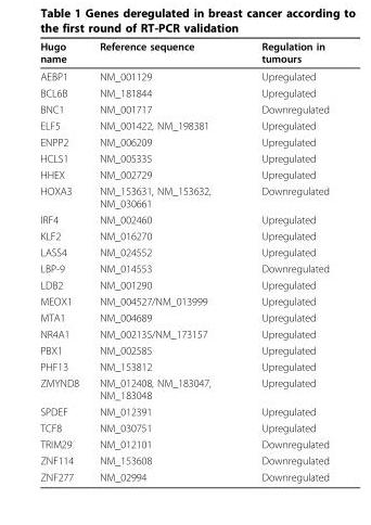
<table><thead><tr><td>Hugo name</td><td>Reference sequence</td><td>Regulation in tumours</td></tr></thead><tbody><tr><td>AEBP1</td><td>NM_001129</td><td>Upregulated</td></tr><tr><td>BCL6B</td><td>NM_181844</td><td>Upregulated</td></tr><tr><td>BNC1</td><td>NM_001717</td><td>Downregulated</td></tr><tr><td>ELF5</td><td>NM_001422, NM_198381</td><td>Upregulated</td></tr><tr><td>ENPP2</td><td>NM_006209</td><td>Upregulated</td></tr><tr><td>HCLS1</td><td>NM_005335</td><td>Upregulated</td></tr><tr><td>HHEX</td><td>NM_002729</td><td>Upregulated</td></tr><tr><td>HOXA3</td><td>NM_153631, NM_153632, NM_030661</td><td>Downregulated</td></tr><tr><td>IRF4</td><td>NM_002460</td><td>Upregulated</td></tr><tr><td>KLF2</td><td>NM_016270</td><td>Upregulated</td></tr><tr><td>LASS4</td><td>NM_024552</td><td>Upregulated</td></tr><tr><td>LBP-9</td><td>NM_014553</td><td>Downregulated</td></tr><tr><td>LDB2</td><td>NM_001290</td><td>Upregulated</td></tr><tr><td>MEOX1</td><td>NM_004527/NM_013999</td><td>Upregulated</td></tr><tr><td>MTA1</td><td>NM_004689</td><td>Upregulated</td></tr><tr><td>NR4A1</td><td>NM_002135/NM_173157</td><td>Upregulated</td></tr><tr><td>PBX1</td><td>NM_002585</td><td>Upregulated</td></tr><tr><td>PHF13</td><td>NM_153812</td><td>Upregulated</td></tr><tr><td>ZMYND8</td><td>NM_012408, NM_183047, NM_183048</td><td>Upregulated</td></tr><tr><td>SPDEF</td><td>NM_012391</td><td>Upregulated</td></tr><tr><td>TCF8</td><td>NM_030751</td><td>Upregulated</td></tr><tr><td>TRIM29</td><td>NM_012101</td><td>Downregulated</td></tr><tr><td>ZNF114</td><td>NM_153608</td><td>Downregulated</td></tr><tr><td>ZNF277</td><td>NM_02994</td><td>Downregulated</td></tr></tbody></table>